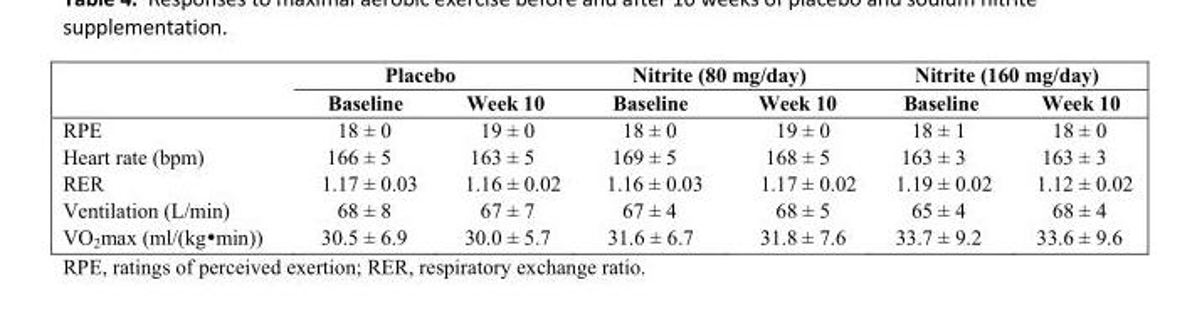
<table><thead><tr><td rowspan="2"></td><td colspan="2">Placebo</td><td colspan="2">Nitrite (80 mg/day)</td><td colspan="2">Nitrite (160 mg/day)</td></tr><tr><td>Baseline</td><td>Week 10</td><td>Baseline</td><td>Week 10</td><td>Baseline</td><td>Week 10</td></tr></thead><tbody><tr><td>RPE</td><td>18 ± 0</td><td>19 ± 0</td><td>18 ± 0</td><td>19 ± 0</td><td>18 ± 1</td><td>18 ± 0</td></tr><tr><td>Heart rate (bpm)</td><td>166 ± 5</td><td>163 ± 5</td><td>169 ± 5</td><td>168 ± 5</td><td>163 ± 3</td><td>163 ± 3</td></tr><tr><td>RER</td><td>1.17 ± 0.03</td><td>1.16 ± 0.02</td><td>1.16 ± 0.03</td><td>1.17 ± 0.02</td><td>1.19 ± 0.02</td><td>1.12 ± 0.02</td></tr><tr><td>Ventilation (L/min)</td><td>68 ± 8</td><td>67 ± 7</td><td>67 ± 4</td><td>68 ± 5</td><td>65 ± 4</td><td>68 ± 4</td></tr><tr><td>VO<sub>2</sub>max (ml/(kg·min))</td><td>30.5 ± 6.9</td><td>30.0 ± 5.7</td><td>31.6 ± 6.7</td><td>31.8 ± 7.6</td><td>33.7 ± 9.2</td><td>33.6 ± 9.6</td></tr></tbody></table>